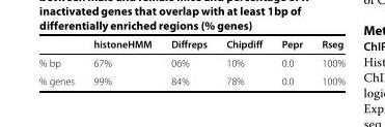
<table><thead><tr><td></td><td>histoneHMM</td><td>Diffreps</td><td>Chipdiff</td><td>Pepr</td><td>Rseg</td></tr></thead><tbody><tr><td>% bp</td><td>67%</td><td>06%</td><td>10%</td><td>0.0</td><td>100%</td></tr><tr><td>% genes</td><td>99%</td><td>84%</td><td>78%</td><td>0.0</td><td>100%</td></tr></tbody></table>